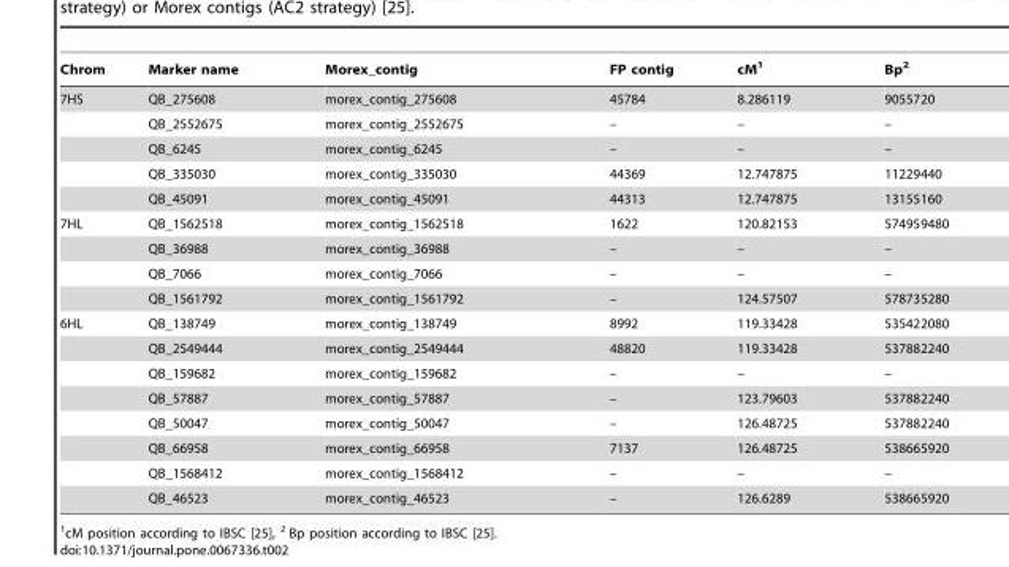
<table><thead><tr><td>Chrom</td><td>Marker name</td><td>Morex_contig</td><td>FP contig</td><td>cM<sup>1</sup></td><td>Bp<sup>2</sup></td></tr></thead><tbody><tr><td rowspan="5">7HS</td><td>QB_275608</td><td>morex_contig_275608</td><td>45784</td><td>8.286119</td><td>9055720</td></tr><tr><td>QB_2552675</td><td>morex_contig_2552675</td><td>–</td><td>–</td><td>–</td></tr><tr><td>QB_6245</td><td>morex_contig_6245</td><td>–</td><td>–</td><td>–</td></tr><tr><td>QB_335030</td><td>morex_contig_335030</td><td>44369</td><td>12.747875</td><td>11229440</td></tr><tr><td>QB_45091</td><td>morex_contig_45091</td><td>44313</td><td>12.747875</td><td>13155160</td></tr><tr><td rowspan="4">7HL</td><td>QB_1562518</td><td>morex_contig_1562518</td><td>1622</td><td>120.82153</td><td>574959480</td></tr><tr><td>QB_36988</td><td>morex_contig_36988</td><td>–</td><td>–</td><td>–</td></tr><tr><td>QB_7066</td><td>morex_contig_7066</td><td>–</td><td>–</td><td>–</td></tr><tr><td>QB_1561792</td><td>morex_contig_1561792</td><td>–</td><td>124.57507</td><td>578735280</td></tr><tr><td rowspan="8">6HL</td><td>QB_138749</td><td>morex_contig_138749</td><td>8992</td><td>119.33428</td><td>535422080</td></tr><tr><td>QB_2549444</td><td>morex_contig_2549444</td><td>48820</td><td>119.33428</td><td>537882240</td></tr><tr><td>QB_159682</td><td>morex_contig_159682</td><td>–</td><td>–</td><td>–</td></tr><tr><td>QB_57887</td><td>morex_contig_57887</td><td>–</td><td>123.79603</td><td>537882240</td></tr><tr><td>QB_50047</td><td>morex_contig_50047</td><td>–</td><td>126.48725</td><td>537882240</td></tr><tr><td>QB_66958</td><td>morex_contig_66958</td><td>7137</td><td>126.48725</td><td>538665920</td></tr><tr><td>QB_1568412</td><td>morex_contig_1568412</td><td>–</td><td>–</td><td>–</td></tr><tr><td>QB_46523</td><td>morex_contig_46523</td><td>–</td><td>126.6289</td><td>538665920</td></tr></tbody></table>